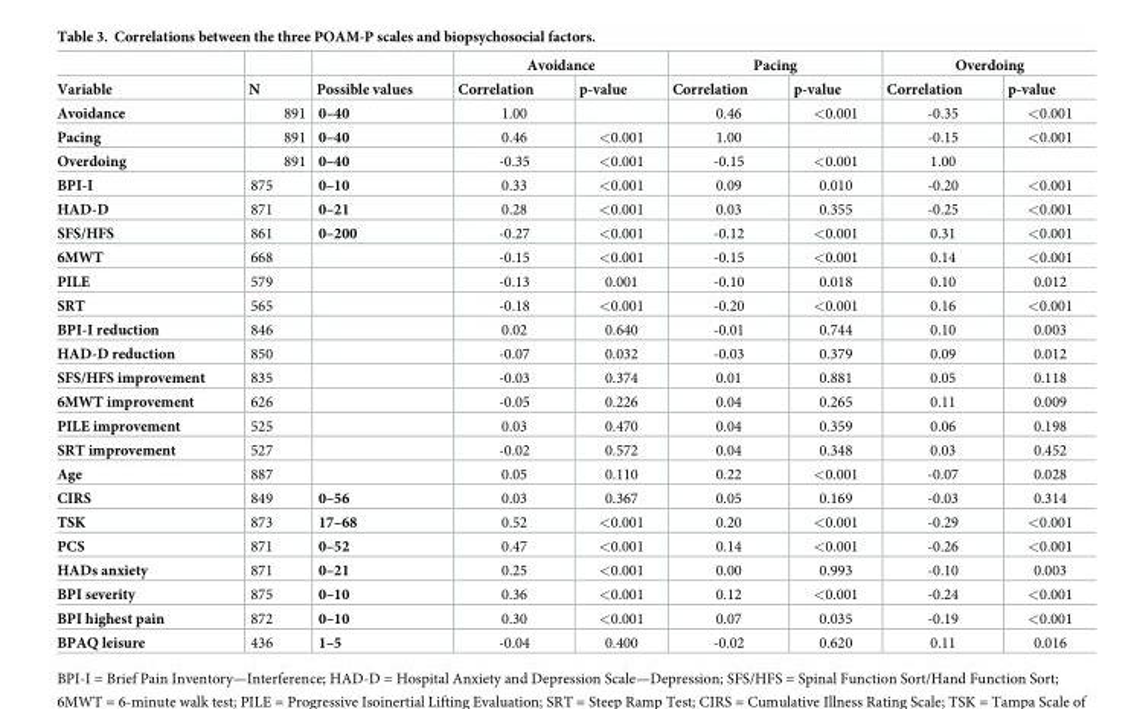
<table><thead><tr><td rowspan="2">Variable</td><td rowspan="2">N</td><td rowspan="2">Possible values</td><td colspan="2">Avoidance</td><td colspan="2">Pacing</td><td colspan="2">Overdoing</td></tr><tr><td>Correlation</td><td>p-value</td><td>Correlation</td><td>p-value</td><td>Correlation</td><td>p-value</td></tr></thead><tbody><tr><td>Avoidance</td><td>891</td><td>0–40</td><td>1.00</td><td></td><td>0.46</td><td>&lt;0.001</td><td>-0.35</td><td>&lt;0.001</td></tr><tr><td>Pacing</td><td>891</td><td>0–40</td><td>0.46</td><td>&lt;0.001</td><td>1.00</td><td></td><td>-0.15</td><td>&lt;0.001</td></tr><tr><td>Overdoing</td><td>891</td><td>0–40</td><td>-0.35</td><td>&lt;0.001</td><td>-0.15</td><td>&lt;0.001</td><td>1.00</td><td></td></tr><tr><td>BPI-I</td><td>875</td><td>0–10</td><td>0.33</td><td>&lt;0.001</td><td>0.09</td><td>0.010</td><td>-0.20</td><td>&lt;0.001</td></tr><tr><td>HAD-D</td><td>871</td><td>0–21</td><td>0.28</td><td>&lt;0.001</td><td>0.03</td><td>0.355</td><td>-0.25</td><td>&lt;0.001</td></tr><tr><td>SFS/HFS</td><td>861</td><td>0–200</td><td>-0.27</td><td>&lt;0.001</td><td>-0.12</td><td>&lt;0.001</td><td>0.31</td><td>&lt;0.001</td></tr><tr><td>6MWT</td><td>668</td><td></td><td>-0.15</td><td>&lt;0.001</td><td>-0.15</td><td>&lt;0.001</td><td>0.14</td><td>&lt;0.001</td></tr><tr><td>PILE</td><td>579</td><td></td><td>-0.13</td><td>0.001</td><td>-0.10</td><td>0.018</td><td>0.10</td><td>0.012</td></tr><tr><td>SRT</td><td>565</td><td></td><td>-0.18</td><td>&lt;0.001</td><td>-0.20</td><td>&lt;0.001</td><td>0.16</td><td>&lt;0.001</td></tr><tr><td>BPI-I reduction</td><td>846</td><td></td><td>0.02</td><td>0.640</td><td>-0.01</td><td>0.744</td><td>0.10</td><td>0.003</td></tr><tr><td>HAD-D reduction</td><td>850</td><td></td><td>-0.07</td><td>0.032</td><td>-0.03</td><td>0.379</td><td>0.09</td><td>0.012</td></tr><tr><td>SFS/HFS improvement</td><td>835</td><td></td><td>-0.03</td><td>0.374</td><td>0.01</td><td>0.881</td><td>0.05</td><td>0.118</td></tr><tr><td>6MWT improvement</td><td>626</td><td></td><td>-0.05</td><td>0.226</td><td>0.04</td><td>0.265</td><td>0.11</td><td>0.009</td></tr><tr><td>PILE improvement</td><td>525</td><td></td><td>0.03</td><td>0.470</td><td>0.04</td><td>0.359</td><td>0.06</td><td>0.198</td></tr><tr><td>SRT improvement</td><td>527</td><td></td><td>-0.02</td><td>0.572</td><td>0.04</td><td>0.348</td><td>0.03</td><td>0.452</td></tr><tr><td>Age</td><td>887</td><td></td><td>0.05</td><td>0.110</td><td>0.22</td><td>&lt;0.001</td><td>-0.07</td><td>0.028</td></tr><tr><td>CIRS</td><td>849</td><td>0–56</td><td>0.03</td><td>0.367</td><td>0.05</td><td>0.169</td><td>-0.03</td><td>0.314</td></tr><tr><td>TSK</td><td>873</td><td>17–68</td><td>0.52</td><td>&lt;0.001</td><td>0.20</td><td>&lt;0.001</td><td>-0.29</td><td>&lt;0.001</td></tr><tr><td>PCS</td><td>871</td><td>0–52</td><td>0.47</td><td>&lt;0.001</td><td>0.14</td><td>&lt;0.001</td><td>-0.26</td><td>&lt;0.001</td></tr><tr><td>HADs anxiety</td><td>871</td><td>0–21</td><td>0.25</td><td>&lt;0.001</td><td>0.00</td><td>0.993</td><td>-0.10</td><td>0.003</td></tr><tr><td>BPI severity</td><td>875</td><td>0–10</td><td>0.36</td><td>&lt;0.001</td><td>0.12</td><td>&lt;0.001</td><td>-0.24</td><td>&lt;0.001</td></tr><tr><td>BPI highest pain</td><td>872</td><td>0–10</td><td>0.30</td><td>&lt;0.001</td><td>0.07</td><td>0.035</td><td>-0.19</td><td>&lt;0.001</td></tr><tr><td>BPAQ leisure</td><td>436</td><td>1–5</td><td>-0.04</td><td>0.400</td><td>-0.02</td><td>0.620</td><td>0.11</td><td>0.016</td></tr></tbody></table>